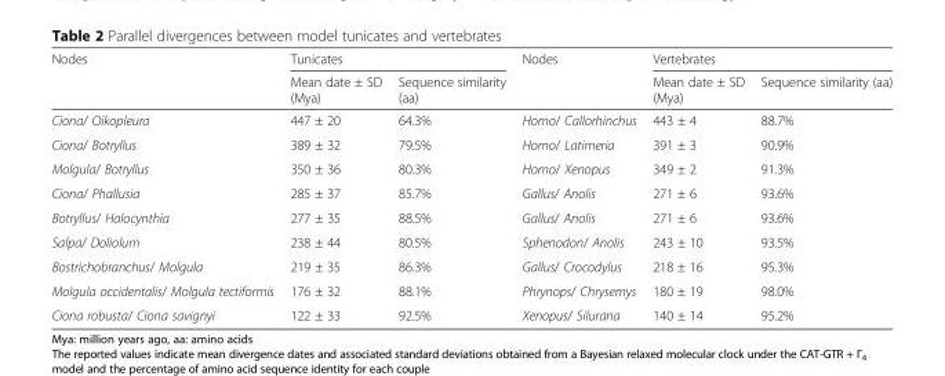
<table><thead><tr><td rowspan="2">Nodes</td><td colspan="2">Tunicates</td><td rowspan="2">Nodes</td><td colspan="2">Vertebrates</td></tr><tr><td>Mean date ± SD (Mya)</td><td>Sequence similarity (aa)</td><td>Mean date ± SD (Mya)</td><td>Sequence similarity (aa)</td></tr></thead><tbody><tr><td>Ciona/ Oikopleura</td><td>447 ± 20</td><td>64.3%</td><td>Homo/ Callorhinchus</td><td>443 ± 4</td><td>88.7%</td></tr><tr><td>Ciona/ Botryllus</td><td>389 ± 32</td><td>79.5%</td><td>Homo/ Latimeria</td><td>391 ± 3</td><td>90.9%</td></tr><tr><td>Molgula/ Botryllus</td><td>350 ± 36</td><td>80.3%</td><td>Homo/ Xenopus</td><td>349 ± 2</td><td>91.3%</td></tr><tr><td>Ciona/ Phallusia</td><td>285 ± 37</td><td>85.7%</td><td>Gallus/ Anolis</td><td>271 ± 6</td><td>93.6%</td></tr><tr><td>Botryllus/ Halocynthia</td><td>277 ± 35</td><td>88.5%</td><td>Gallus/ Anolis</td><td>271 ± 6</td><td>93.6%</td></tr><tr><td>Salpa/ Doliolum</td><td>238 ± 44</td><td>80.5%</td><td>Sphenodon/ Anolis</td><td>243 ± 10</td><td>93.5%</td></tr><tr><td>Bostrichobranchus/ Molgula</td><td>219 ± 35</td><td>86.3%</td><td>Gallus/ Crocodylus</td><td>218 ± 16</td><td>95.3%</td></tr><tr><td>Molgula occidentalis/ Molgula tectiformis</td><td>176 ± 32</td><td>88.1%</td><td>Phrynops/ Chrysemys</td><td>180 ± 19</td><td>98.0%</td></tr><tr><td>Ciona robusta/ Ciona savignyi</td><td>122 ± 33</td><td>92.5%</td><td>Xenopus/ Silurana</td><td>140 ± 14</td><td>95.2%</td></tr></tbody></table>